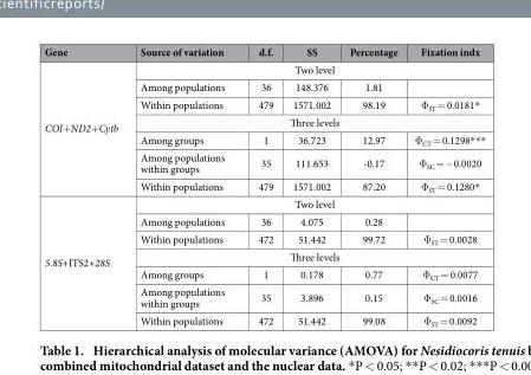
<table><thead><tr><td>Gene</td><td>Source of variation</td><td>d.f.</td><td>SS</td><td>Percentage</td><td>Fixation indx</td></tr></thead><tbody><tr><td rowspan="7">COI+ ND2+ Cytb</td><td colspan="5">Two level</td></tr><tr><td>Among populations</td><td>36</td><td>148.376</td><td>1.81</td><td></td></tr><tr><td>Within populations</td><td>479</td><td>1571.002</td><td>98.19</td><td>Φ <sub>ST</sub> = 0.0181*</td></tr><tr><td colspan="5">Three levels</td></tr><tr><td>Among groups</td><td>1</td><td>36.723</td><td>12.97</td><td>Φ <sub>CT</sub> = 0.1298* * *</td></tr><tr><td>Among populations within groups</td><td>35</td><td>111.653</td><td>-0.17</td><td>Φ <sub>SC</sub> = − 0.0020</td></tr><tr><td>Within populations</td><td>479</td><td>1571.002</td><td>87.20</td><td>Φ <sub>ST</sub> = 0.1280*</td></tr><tr><td rowspan="7">5.8S+ITS2+28S</td><td colspan="5">Two level</td></tr><tr><td>Among populations</td><td>36</td><td>4.075</td><td>0.28</td><td></td></tr><tr><td>Within populations</td><td>472</td><td>51.442</td><td>99.72</td><td>Φ <sub>ST</sub> = 0.0028</td></tr><tr><td colspan="5">Three levels</td></tr><tr><td>Among groups</td><td>1</td><td>0.178</td><td>0.77</td><td>Φ <sub>CT</sub> = 0.0077</td></tr><tr><td>Among populations within groups</td><td>35</td><td>3.896</td><td>0.15</td><td>Φ <sub>SC</sub> = 0.0016</td></tr><tr><td>Within populations</td><td>472</td><td>51.442</td><td>99.08</td><td>Φ <sub>ST</sub> = 0.0092</td></tr></tbody></table>